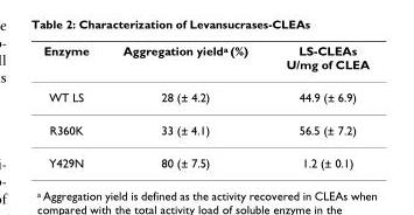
<table><thead><tr><td>Enzyme</td><td>Aggregation yield<sup>a</sup> (%)</td><td>LS-CLEAs U/mg of CLEA</td></tr></thead><tbody><tr><td>WT LS</td><td>28 (± 4.2)</td><td>44.9 (± 6.9)</td></tr><tr><td>R360K</td><td>33 (± 4.1)</td><td>56.5 (± 7.2)</td></tr><tr><td>Y429N</td><td>80 (± 7.5)</td><td>1.2 (± 0.1)</td></tr></tbody></table>